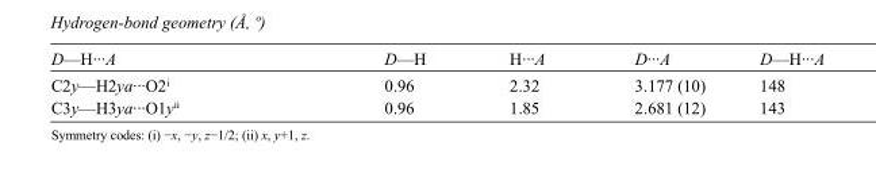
<table><tbody><tr><td>D—H···A</td><td>D—H</td><td>H···A</td><td>D···A</td><td>D—H···A</td></tr><tr><td>C2y—H2ya···O2<sup>i</sup></td><td>0.96</td><td>2.32</td><td>3.177 (10)</td><td>148</td></tr><tr><td>C3y—H3ya···O1y<sup>ii</sup></td><td>0.96</td><td>1.85</td><td>2.681 (12)</td><td>143</td></tr></tbody></table>